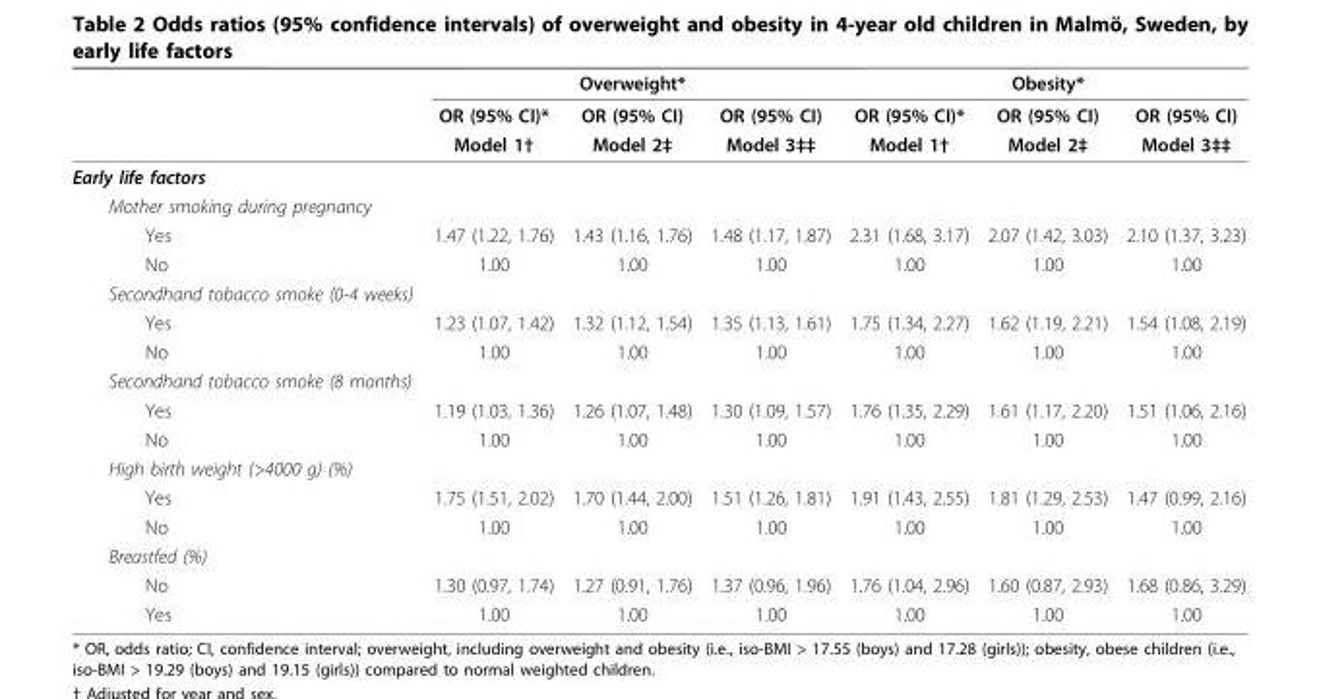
<table><thead><tr><td rowspan="3"></td><td colspan="3">Overweight*</td><td colspan="3">Obesity*</td></tr><tr><td rowspan="2">OR (95% CI)* Model 1†</td><td rowspan="2">OR (95% CI) Model 2‡</td><td rowspan="2">OR (95% CI) Model 3‡‡</td><td rowspan="2">OR (95% CI)* Model 1†</td><td rowspan="2">OR (95% CI) Model 2‡</td><td rowspan="2">OR (95% CI) Model 3‡‡</td></tr><tr></tr></thead><tbody><tr><td colspan="7">Early life factors</td></tr><tr><td colspan="7">Mother smoking during pregnancy</td></tr><tr><td>Yes</td><td>1.47 (1.22, 1.76)</td><td>1.43 (1.16, 1.76)</td><td>1.48 (1.17, 1.87)</td><td>2.31 (1.68, 3.17)</td><td>2.07 (1.42, 3.03)</td><td>2.10 (1.37, 3.23)</td></tr><tr><td>No</td><td>1.00</td><td>1.00</td><td>1.00</td><td>1.00</td><td>1.00</td><td>1.00</td></tr><tr><td colspan="7">Secondhand tobacco smoke (0-4 weeks)</td></tr><tr><td>Yes</td><td>1.23 (1.07, 1.42)</td><td>1.32 (1.12, 1.54)</td><td>1.35 (1.13, 1.61)</td><td>1.75 (1.34, 2.27)</td><td>1.62 (1.19, 2.21)</td><td>1.54 (1.08, 2.19)</td></tr><tr><td>No</td><td>1.00</td><td>1.00</td><td>1.00</td><td>1.00</td><td>1.00</td><td>1.00</td></tr><tr><td colspan="7">Secondhand tobacco smoke (8 months)</td></tr><tr><td>Yes</td><td>1.19 (1.03, 1.36)</td><td>1.26 (1.07, 1.48)</td><td>1.30 (1.09, 1.57)</td><td>1.76 (1.35, 2.29)</td><td>1.61 (1.17, 2.20)</td><td>1.51 (1.06, 2.16)</td></tr><tr><td>No</td><td>1.00</td><td>1.00</td><td>1.00</td><td>1.00</td><td>1.00</td><td>1.00</td></tr><tr><td colspan="7">High birth weight (&gt;4000 g) (%)</td></tr><tr><td>Yes</td><td>1.75 (1.51, 2.02)</td><td>1.70 (1.44, 2.00)</td><td>1.51 (1.26, 1.81)</td><td>1.91 (1.43, 2.55)</td><td>1.81 (1.29, 2.53)</td><td>1.47 (0.99, 2.16)</td></tr><tr><td>No</td><td>1.00</td><td>1.00</td><td>1.00</td><td>1.00</td><td>1.00</td><td>1.00</td></tr><tr><td colspan="7">Breastfed (%)</td></tr><tr><td>No</td><td>1.30 (0.97, 1.74)</td><td>1.27 (0.91, 1.76)</td><td>1.37 (0.96, 1.96)</td><td>1.76 (1.04, 2.96)</td><td>1.60 (0.87, 2.93)</td><td>1.68 (0.86, 3.29)</td></tr><tr><td>Yes</td><td>1.00</td><td>1.00</td><td>1.00</td><td>1.00</td><td>1.00</td><td>1.00</td></tr></tbody></table>